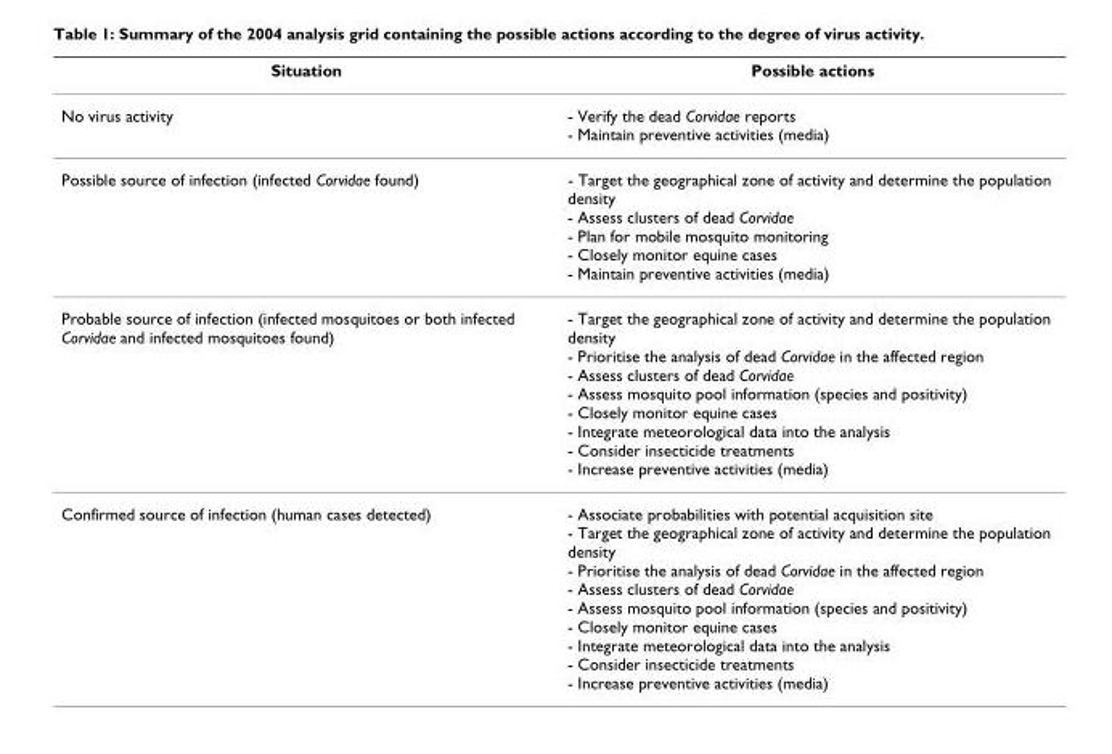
<table><thead><tr><td>Situation</td><td>Possible actions</td></tr></thead><tbody><tr><td>No virus activity</td><td>- Verify the dead Corvidae reports - Maintain preventive activities (media)</td></tr><tr><td>Possible source of infection (infected Corvidae found)</td><td>- Target the geographical zone of activity and determine the population density - Assess clusters of dead Corvidae - Plan for mobile mosquito monitoring - Closely monitor equine cases - Maintain preventive activities (media)</td></tr><tr><td>Probable source of infection (infected mosquitoes or both infected Corvidae and infected mosquitoes found)</td><td>- Target the geographical zone of activity and determine the population density - Prioritise the analysis of dead Corvidae in the affected region - Assess clusters of dead Corvidae - Assess mosquito pool information (species and positivity) - Closely monitor equine cases - Integrate meteorological data into the analysis - Consider insecticide treatments - Increase preventive activities (media)</td></tr><tr><td>Confirmed source of infection (human cases detected)</td><td>- Associate probabilities with potential acquisition site - Target the geographical zone of activity and determine the population density - Prioritise the analysis of dead Corvidae in the affected region - Assess clusters of dead Corvidae - Assess mosquito pool information (species and positivity) - Closely monitor equine cases - Integrate meteorological data into the analysis - Consider insecticide treatments - Increase preventive activities (media)</td></tr></tbody></table>